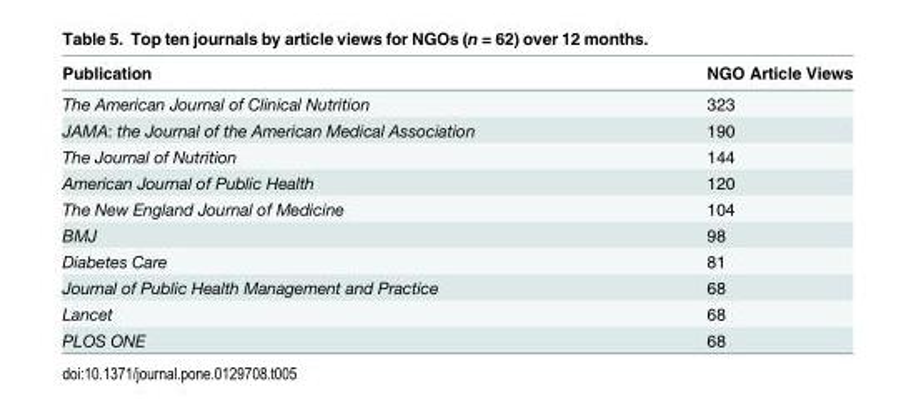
<table><thead><tr><td>Publication</td><td>NGO Article Views</td></tr></thead><tbody><tr><td>The American Journal of Clinical Nutrition</td><td>323</td></tr><tr><td>JAMA: the Journal of the American Medical Association</td><td>190</td></tr><tr><td>The Journal of Nutrition</td><td>144</td></tr><tr><td>American Journal of Public Health</td><td>120</td></tr><tr><td>The New England Journal of Medicine</td><td>104</td></tr><tr><td>BMJ</td><td>98</td></tr><tr><td>Diabetes Care</td><td>81</td></tr><tr><td>Journal of Public Health Management and Practice</td><td>68</td></tr><tr><td>Lancet</td><td>68</td></tr><tr><td>PLOS ONE</td><td>68</td></tr></tbody></table>